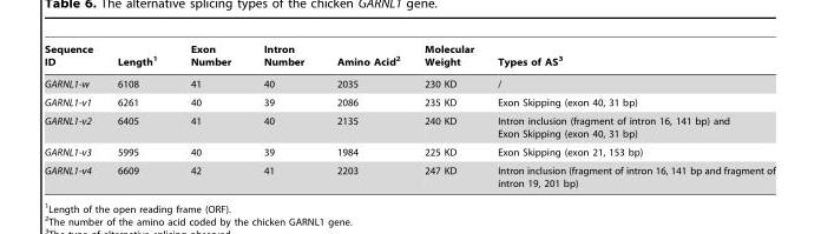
<table><thead><tr><td>Sequence ID</td><td>Length<sup>1</sup></td><td>Exon Number</td><td>Intron Number</td><td>Amino Acid<sup>2</sup></td><td>Molecular Weight</td><td>Types of AS<sup>3</sup></td></tr></thead><tbody><tr><td>GARNL1-w</td><td>6108</td><td>41</td><td>40</td><td>2035</td><td>230 KD</td><td>/</td></tr><tr><td>GARNL1-v1</td><td>6261</td><td>40</td><td>39</td><td>2086</td><td>235 KD</td><td>Exon Skipping (exon 40, 31 bp)</td></tr><tr><td>GARNL1-v2</td><td>6405</td><td>41</td><td>40</td><td>2135</td><td>240 KD</td><td>Intron inclusion (fragment of intron 16, 141 bp) and Exon Skipping (exon 40, 31 bp)</td></tr><tr><td>GARNL1-v3</td><td>5995</td><td>40</td><td>39</td><td>1984</td><td>225 KD</td><td>Exon Skipping (exon 21, 153 bp)</td></tr><tr><td>GARNL1-v4</td><td>6609</td><td>42</td><td>41</td><td>2203</td><td>247 KD</td><td>Intron inclusion (fragment of intron 16, 141 bp and fragment of intron 19, 201 bp)</td></tr></tbody></table>